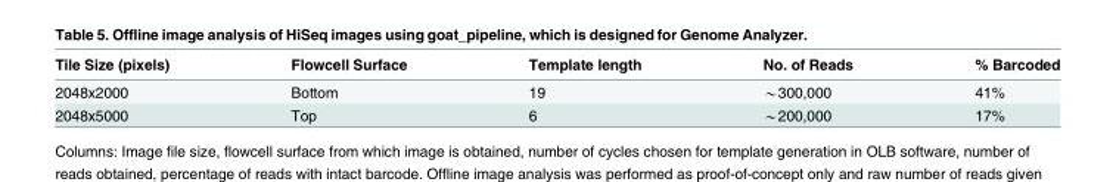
<table><thead><tr><td>Tile Size (pixels)</td><td>Flowcell Surface</td><td>Template length</td><td>No. of Reads</td><td>% Barcoded</td></tr></thead><tbody><tr><td>2048x2000</td><td>Bottom</td><td>19</td><td>*300,000</td><td>41%</td></tr><tr><td>2048x5000</td><td>Top</td><td>6</td><td>*200,000</td><td>17%</td></tr></tbody></table>